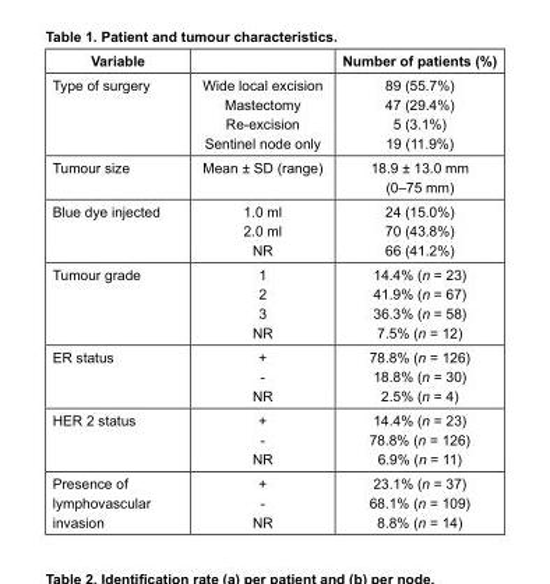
<table><thead><tr><td>Variable</td><td></td><td>Number of patients (%)</td></tr></thead><tbody><tr><td>Type of surgery</td><td>Wide local excision Mastectomy Re-excision Sentinel node only</td><td>89 (55.7%) 47 (29.4%) 5 (3.1%) 19 (11.9%)</td></tr><tr><td>Tumour size</td><td>Mean ± SD (range)</td><td>18.9 ± 13.0 mm (0–75 mm)</td></tr><tr><td>Blue dye injected</td><td>1.0 ml 2.0 ml NR</td><td>24 (15.0%) 70 (43.8%) 66 (41.2%)</td></tr><tr><td>Tumour grade</td><td>1 2 3 NR</td><td>14.4% (n = 23) 41.9% (n = 67) 36.3% (n = 58) 7.5% (n = 12)</td></tr><tr><td>ER status</td><td>+ - NR</td><td>78.8% (n = 126) 18.8% (n = 30) 2.5% (n = 4)</td></tr><tr><td>HER 2 status</td><td>+ - NR</td><td>14.4% (n = 23) 78.8% (n = 126) 6.9% (n = 11)</td></tr><tr><td>Presence of lymphovascular invasion</td><td>+ - NR</td><td>23.1% (n = 37) 68.1% (n = 109) 8.8% (n = 14)</td></tr></tbody></table>